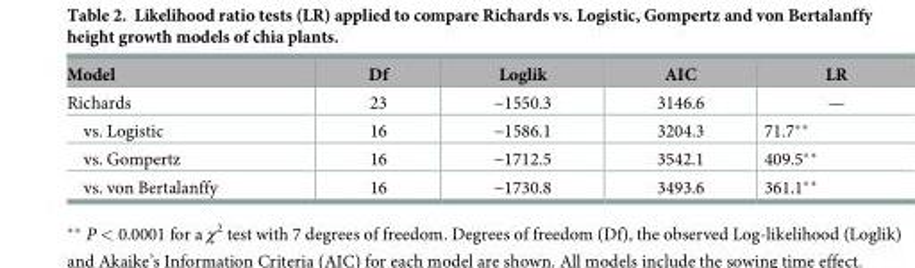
<table><thead><tr><td>Model</td><td>Df</td><td>Loglik</td><td>AIC</td><td>LR</td></tr></thead><tbody><tr><td>Richards</td><td>23</td><td>−1550.3</td><td>3146.6</td><td>—</td></tr><tr><td>vs. Logistic</td><td>16</td><td>−1586.1</td><td>3204.3</td><td>71.7**</td></tr><tr><td>vs. Gompertz</td><td>16</td><td>−1712.5</td><td>3542.1</td><td>409.5**</td></tr><tr><td>vs. von Bertalanffy</td><td>16</td><td>−1730.8</td><td>3493.6</td><td>361.1**</td></tr></tbody></table>